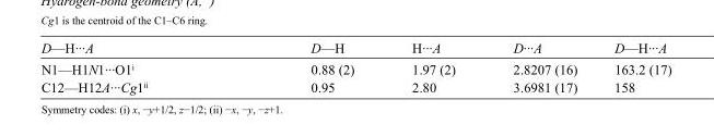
<table><tbody><tr><td>D—H···A</td><td>D—H</td><td>H···A</td><td>D···A</td><td>D—H···A</td></tr><tr><td>N1—H1N1···O1<sup>i</sup></td><td>0.88 (2)</td><td>1.97 (2)</td><td>2.8207 (16)</td><td>163.2 (17)</td></tr><tr><td>C12—H12A···Cg1<sup>ii</sup></td><td>0.95</td><td>2.80</td><td>3.6981 (17)</td><td>158</td></tr></tbody></table>